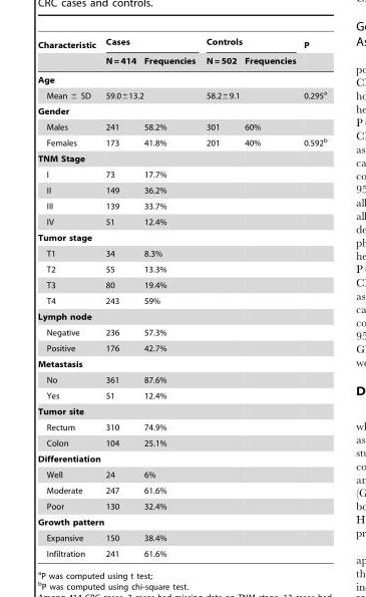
<table><thead><tr><td rowspan="2">Characteristic</td><td colspan="2">Cases</td><td colspan="2">Controls</td><td rowspan="2">P</td></tr><tr><td>N = 414</td><td>Frequencies</td><td>N = 502</td><td>Frequencies</td></tr></thead><tbody><tr><td colspan="6">Age</td></tr><tr><td>Mean ± SD</td><td colspan="2">59.0±13.2</td><td colspan="2">58.2±9.1</td><td>0.295<sup>a</sup></td></tr><tr><td colspan="6">Gender</td></tr><tr><td>Males</td><td>241</td><td>58.2%</td><td>301</td><td>60%</td><td></td></tr><tr><td>Females</td><td>173</td><td>41.8%</td><td>201</td><td>40%</td><td>0.592<sup>b</sup></td></tr><tr><td colspan="6">TNM Stage</td></tr><tr><td>I</td><td>73</td><td>17.7%</td><td></td><td></td><td></td></tr><tr><td>II</td><td>149</td><td>36.2%</td><td></td><td></td><td></td></tr><tr><td>III</td><td>139</td><td>33.7%</td><td></td><td></td><td></td></tr><tr><td>IV</td><td>51</td><td>12.4%</td><td></td><td></td><td></td></tr><tr><td colspan="6">Tumor stage</td></tr><tr><td>T1</td><td>34</td><td>8.3%</td><td></td><td></td><td></td></tr><tr><td>T2</td><td>55</td><td>13.3%</td><td></td><td></td><td></td></tr><tr><td>T3</td><td>80</td><td>19.4%</td><td></td><td></td><td></td></tr><tr><td>T4</td><td>243</td><td>59%</td><td></td><td></td><td></td></tr><tr><td colspan="6">Lymph node</td></tr><tr><td>Negative</td><td>236</td><td>57.3%</td><td></td><td></td><td></td></tr><tr><td>Positive</td><td>176</td><td>42.7%</td><td></td><td></td><td></td></tr><tr><td colspan="6">Metastasis</td></tr><tr><td>No</td><td>361</td><td>87.6%</td><td></td><td></td><td></td></tr><tr><td>Yes</td><td>51</td><td>12.4%</td><td></td><td></td><td></td></tr><tr><td colspan="6">Tumor site</td></tr><tr><td>Rectum</td><td>310</td><td>74.9%</td><td></td><td></td><td></td></tr><tr><td>Colon</td><td>104</td><td>25.1%</td><td></td><td></td><td></td></tr><tr><td colspan="6">Differentiation</td></tr><tr><td>Well</td><td>24</td><td>6%</td><td></td><td></td><td></td></tr><tr><td>Moderate</td><td>247</td><td>61.6%</td><td></td><td></td><td></td></tr><tr><td>Poor</td><td>130</td><td>32.4%</td><td></td><td></td><td></td></tr><tr><td colspan="6">Growth pattern</td></tr><tr><td>Expansive</td><td>150</td><td>38.4%</td><td></td><td></td><td></td></tr><tr><td>Infiltration</td><td>241</td><td>61.6%</td><td></td><td></td><td></td></tr></tbody></table>